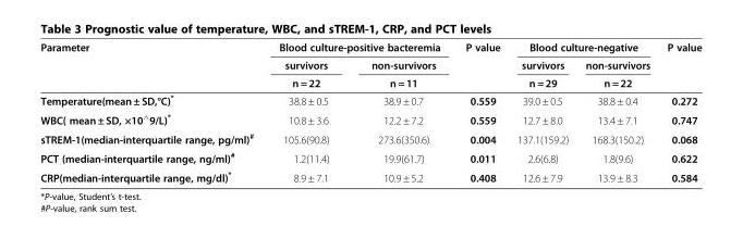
<table><thead><tr><td rowspan="3">Parameter</td><td colspan="2">Blood culture-positive bacteremia</td><td rowspan="3">P value</td><td colspan="2">Blood culture-negative</td><td rowspan="3">P value</td></tr><tr><td rowspan="2">survivors n = 22</td><td rowspan="2">non-survivors n = 11</td><td rowspan="2">survivors n = 29</td><td rowspan="2">non-survivors n = 22</td></tr><tr></tr></thead><tbody><tr><td>Temperature(mean ± SD,°C)*</td><td>38.8 ± 0.5</td><td>38.9 ± 0.7</td><td>0.559</td><td>39.0 ± 0.5</td><td>38.8 ± 0.4</td><td>0.272</td></tr><tr><td>WBC( mean ± SD, ×10<sup>∧</sup>9/L)*</td><td>10.8 ± 3.6</td><td>12.2 ± 7.2</td><td>0.559</td><td>12.7 ± 8.0</td><td>13.4 ± 7.1</td><td>0.747</td></tr><tr><td>sTREM-1(median-interquartile range, pg/ml)<sup>#</sup></td><td>105.6(90.8)</td><td>273.6(350.6)</td><td>0.004</td><td>137.1(159.2)</td><td>168.3(150.2)</td><td>0.068</td></tr><tr><td>PCT (median-interquartile range, ng/ml)<sup>#</sup></td><td>1.2(11.4)</td><td>19.9(61.7)</td><td>0.011</td><td>2.6(6.8)</td><td>1.8(9.6)</td><td>0.622</td></tr><tr><td>CRP(median-interquartile range, mg/dl)*</td><td>8.9 ± 7.1</td><td>10.9 ± 5.2</td><td>0.408</td><td>12.6 ± 7.9</td><td>13.9 ± 8.3</td><td>0.584</td></tr></tbody></table>